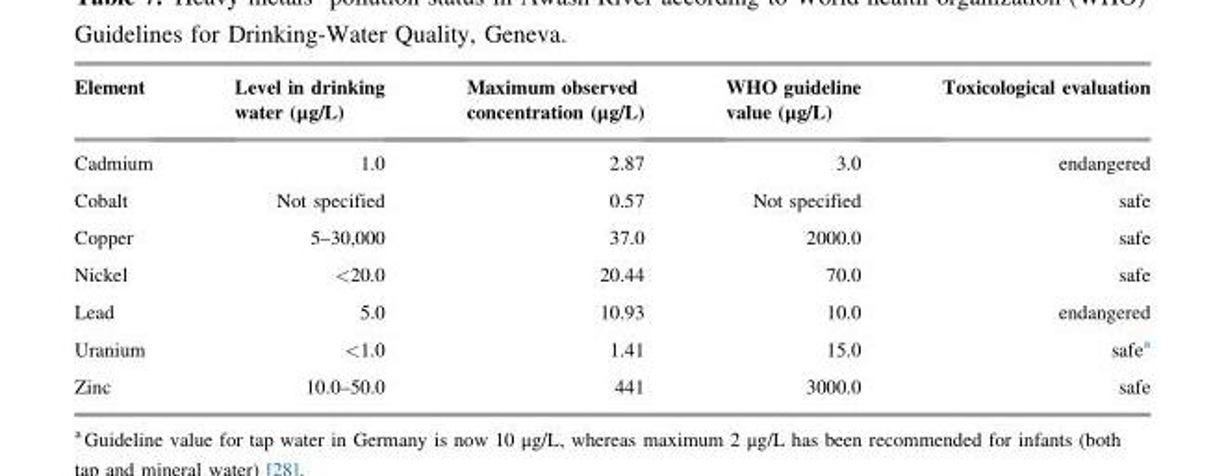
<table><thead><tr><td>Element</td><td>Level in drinking water (μg/L)</td><td>Maximum observed concentration (μg/L)</td><td>WHO guideline value (μg/L)</td><td>Toxicological evaluation</td></tr></thead><tbody><tr><td>Cadmium</td><td>1.0</td><td>2.87</td><td>3.0</td><td>endangered</td></tr><tr><td>Cobalt</td><td>Not specified</td><td>0.57</td><td>Not specified</td><td>safe</td></tr><tr><td>Copper</td><td>5–30,000</td><td>37.0</td><td>2000.0</td><td>safe</td></tr><tr><td>Nickel</td><td>&lt;20.0</td><td>20.44</td><td>70.0</td><td>safe</td></tr><tr><td>Lead</td><td>5.0</td><td>10.93</td><td>10.0</td><td>endangered</td></tr><tr><td>Uranium</td><td>&lt;1.0</td><td>1.41</td><td>15.0</td><td>safe<sup>a</sup></td></tr><tr><td>Zinc</td><td>10.0–50.0</td><td>441</td><td>3000.0</td><td>safe</td></tr></tbody></table>